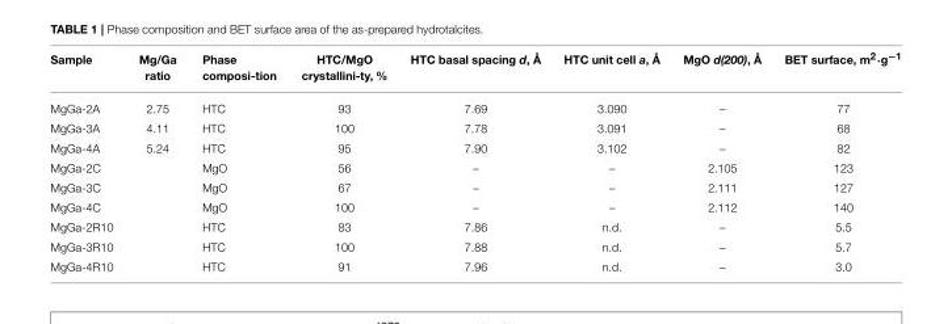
<table><thead><tr><td>Sample</td><td>Mg/Ga ratio</td><td>Phase composi-tion</td><td>HTC/MgO crystallini-ty, %</td><td>HTC basal spacing d, Å</td><td>HTC unit cell a, Å</td><td>MgO d(200), Å</td><td>BET surface, m<sup>2</sup>·g<sup>−1</sup></td></tr></thead><tbody><tr><td>MgGa-2A</td><td>2.75</td><td>HTC</td><td>93</td><td>7.69</td><td>3.090</td><td>–</td><td>77</td></tr><tr><td>MgGa-3A</td><td>4.11</td><td>HTC</td><td>100</td><td>7.78</td><td>3.091</td><td>–</td><td>68</td></tr><tr><td>MgGa-4A</td><td>5.24</td><td>HTC</td><td>95</td><td>7.90</td><td>3.102</td><td>–</td><td>82</td></tr><tr><td>MgGa-2C</td><td></td><td>MgO</td><td>56</td><td>–</td><td>–</td><td>2.105</td><td>123</td></tr><tr><td>MgGa-3C</td><td></td><td>MgO</td><td>67</td><td>–</td><td>–</td><td>2.111</td><td>127</td></tr><tr><td>MgGa-4C</td><td></td><td>MgO</td><td>100</td><td>–</td><td>–</td><td>2.112</td><td>140</td></tr><tr><td>MgGa-2R10</td><td></td><td>HTC</td><td>83</td><td>7.86</td><td>n.d.</td><td>–</td><td>5.5</td></tr><tr><td>MgGa-3R10</td><td></td><td>HTC</td><td>100</td><td>7.88</td><td>n.d.</td><td>–</td><td>5.7</td></tr><tr><td>MgGa-4R10</td><td></td><td>HTC</td><td>91</td><td>7.96</td><td>n.d.</td><td>–</td><td>3.0</td></tr></tbody></table>